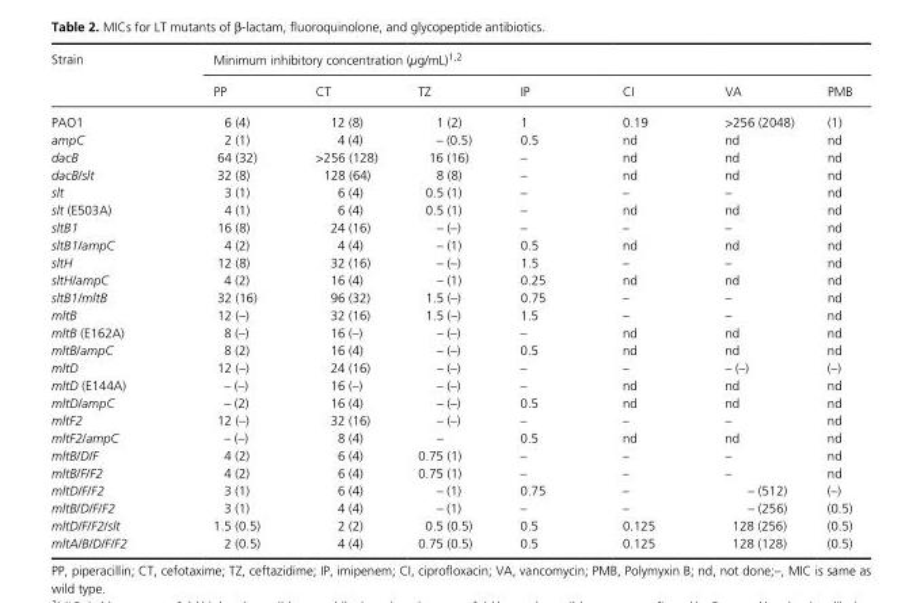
<table><thead><tr><td rowspan="2">Strain</td><td colspan="7">Minimum inhibitory concentration (μg/mL)1,2</td></tr><tr><td>PP</td><td>CT</td><td>TZ</td><td>IP</td><td>CI</td><td>VA</td><td>PMB</td></tr></thead><tbody><tr><td>PAO1</td><td>6 (4)</td><td>12 (8)</td><td>1 (2)</td><td>1</td><td>0.19</td><td>&gt;256 (2048)</td><td>(1)</td></tr><tr><td>ampC</td><td>2 (1)</td><td>4 (4)</td><td>– (0.5)</td><td>0.5</td><td>nd</td><td>nd</td><td>nd</td></tr><tr><td>dacB</td><td>64 (32)</td><td>&gt;256 (128)</td><td>16 (16)</td><td>–</td><td>nd</td><td>nd</td><td>nd</td></tr><tr><td>dacB/slt</td><td>32 (8)</td><td>128 (64)</td><td>8 (8)</td><td>–</td><td>nd</td><td>nd</td><td>nd</td></tr><tr><td>slt</td><td>3 (1)</td><td>6 (4)</td><td>0.5 (1)</td><td>–</td><td>–</td><td>–</td><td>nd</td></tr><tr><td>slt (E503A)</td><td>4 (1)</td><td>6 (4)</td><td>0.5 (1)</td><td>–</td><td>nd</td><td>nd</td><td>nd</td></tr><tr><td>sltB1</td><td>16 (8)</td><td>24 (16)</td><td>– (–)</td><td>–</td><td>–</td><td>–</td><td>nd</td></tr><tr><td>sltB1/ampC</td><td>4 (2)</td><td>4 (4)</td><td>– (1)</td><td>0.5</td><td>nd</td><td>nd</td><td>nd</td></tr><tr><td>sltH</td><td>12 (8)</td><td>32 (16)</td><td>– (–)</td><td>1.5</td><td>–</td><td>–</td><td>nd</td></tr><tr><td>sltH/ampC</td><td>4 (2)</td><td>16 (4)</td><td>– (1)</td><td>0.25</td><td>nd</td><td>nd</td><td>nd</td></tr><tr><td>sltB1/mltB</td><td>32 (16)</td><td>96 (32)</td><td>1.5 (–)</td><td>0.75</td><td>–</td><td>–</td><td>nd</td></tr><tr><td>mltB</td><td>12 (–)</td><td>32 (16)</td><td>1.5 (–)</td><td>1.5</td><td>–</td><td>–</td><td>nd</td></tr><tr><td>mltB (E162A)</td><td>8 (–)</td><td>16 (–)</td><td>– (–)</td><td>–</td><td>nd</td><td>nd</td><td>nd</td></tr><tr><td>mltB/ampC</td><td>8 (2)</td><td>16 (4)</td><td>– (–)</td><td>0.5</td><td>nd</td><td>nd</td><td>nd</td></tr><tr><td>mltD</td><td>12 (–)</td><td>24 (16)</td><td>– (–)</td><td>–</td><td>–</td><td>– (–)</td><td>(–)</td></tr><tr><td>mltD (E144A)</td><td>– (–)</td><td>16 (–)</td><td>– (–)</td><td>–</td><td>nd</td><td>nd</td><td>nd</td></tr><tr><td>mltD/ampC</td><td>– (2)</td><td>16 (4)</td><td>– (–)</td><td>0.5</td><td>nd</td><td>nd</td><td>nd</td></tr><tr><td>mltF2</td><td>12 (–)</td><td>32 (16)</td><td>– (–)</td><td>–</td><td>–</td><td>–</td><td>nd</td></tr><tr><td>mltF2/ampC</td><td>– (–)</td><td>8 (4)</td><td>–</td><td>0.5</td><td>nd</td><td>nd</td><td>nd</td></tr><tr><td>mltB/D/F</td><td>4 (2)</td><td>6 (4)</td><td>0.75 (1)</td><td>–</td><td>–</td><td>–</td><td>nd</td></tr><tr><td>mltB/F/F2</td><td>4 (2)</td><td>6 (4)</td><td>0.75 (1)</td><td>–</td><td>–</td><td>–</td><td>nd</td></tr><tr><td>mltD/F/F2</td><td>3 (1)</td><td>6 (4)</td><td>– (1)</td><td>0.75</td><td>–</td><td>– (512)</td><td>(–)</td></tr><tr><td>mltB/D/F/F2</td><td>3 (1)</td><td>4 (4)</td><td>– (1)</td><td>–</td><td>–</td><td>– (256)</td><td>(0.5)</td></tr><tr><td>mltD/F/F2/slt</td><td>1.5 (0.5)</td><td>2 (2)</td><td>0.5 (0.5)</td><td>0.5</td><td>0.125</td><td>128 (256)</td><td>(0.5)</td></tr><tr><td>mltA/B/D/F/F2</td><td>2 (0.5)</td><td>4 (4)</td><td>0.75 (0.5)</td><td>0.5</td><td>0.125</td><td>128 (128)</td><td>(0.5)</td></tr></tbody></table>